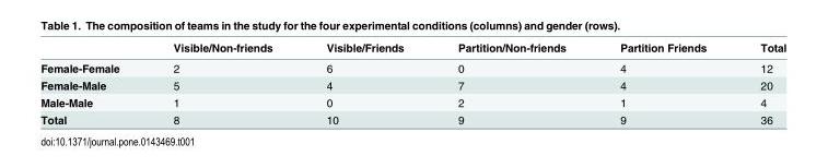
<table><thead><tr><td></td><td>Visible/Non-friends</td><td>Visible/Friends</td><td>Partition/Non-friends</td><td>Partition Friends</td><td>Total</td></tr></thead><tbody><tr><td>Female-Female</td><td>2</td><td>6</td><td>0</td><td>4</td><td>12</td></tr><tr><td>Female-Male</td><td>5</td><td>4</td><td>7</td><td>4</td><td>20</td></tr><tr><td>Male-Male</td><td>1</td><td>0</td><td>2</td><td>1</td><td>4</td></tr><tr><td>Total</td><td>8</td><td>10</td><td>9</td><td>9</td><td>36</td></tr></tbody></table>